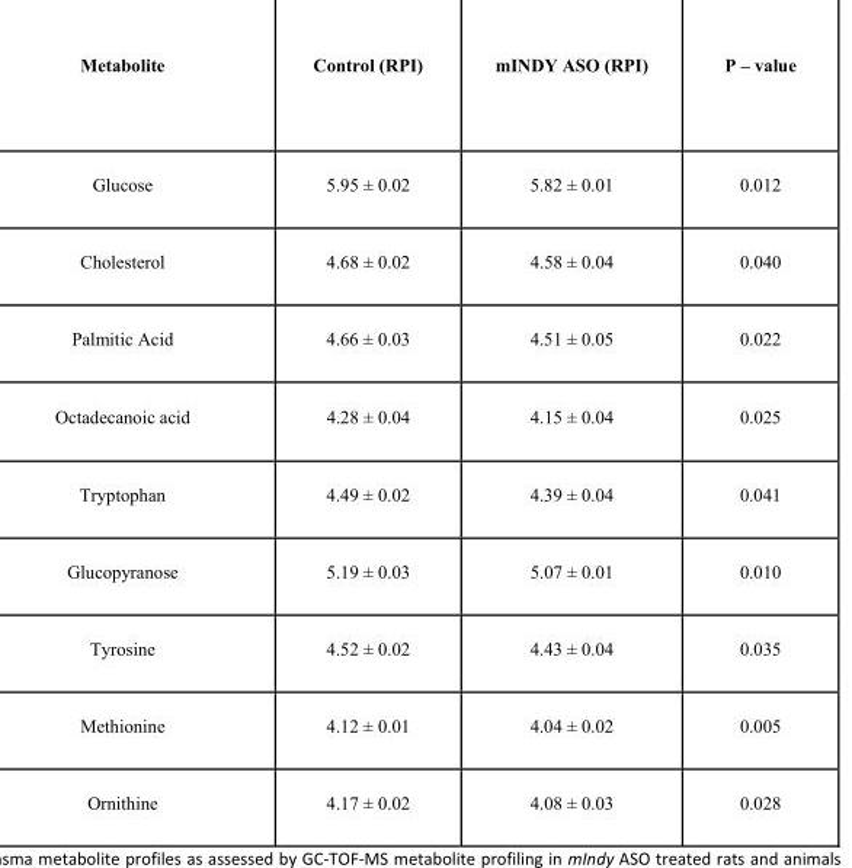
<table><thead><tr><td>Metabolite</td><td>Control (RPI)</td><td>mINDY ASO (RPI)</td><td>P – value</td></tr></thead><tbody><tr><td>Glucose</td><td>5.95 ± 0.02</td><td>5.82 ± 0.01</td><td>0.012</td></tr><tr><td>Cholesterol</td><td>4.68 ± 0.02</td><td>4.58 ± 0.04</td><td>0.040</td></tr><tr><td>Palmitic Acid</td><td>4.66 ± 0.03</td><td>4.51 ± 0.05</td><td>0.022</td></tr><tr><td>Octadecanoic acid</td><td>4.28 ± 0.04</td><td>4.15 ± 0.04</td><td>0.025</td></tr><tr><td>Tryptophan</td><td>4.49 ± 0.02</td><td>4.39 ± 0.04</td><td>0.041</td></tr><tr><td>Glucopyranose</td><td>5.19 ± 0.03</td><td>5.07 ± 0.01</td><td>0.010</td></tr><tr><td>Tyrosine</td><td>4.52 ± 0.02</td><td>4.43 ± 0.04</td><td>0.035</td></tr><tr><td>Methionine</td><td>4.12 ± 0.01</td><td>4.04 ± 0.02</td><td>0.005</td></tr><tr><td>Ornithine</td><td>4.17 ± 0.02</td><td>4.08 ± 0.03</td><td>0.028</td></tr></tbody></table>